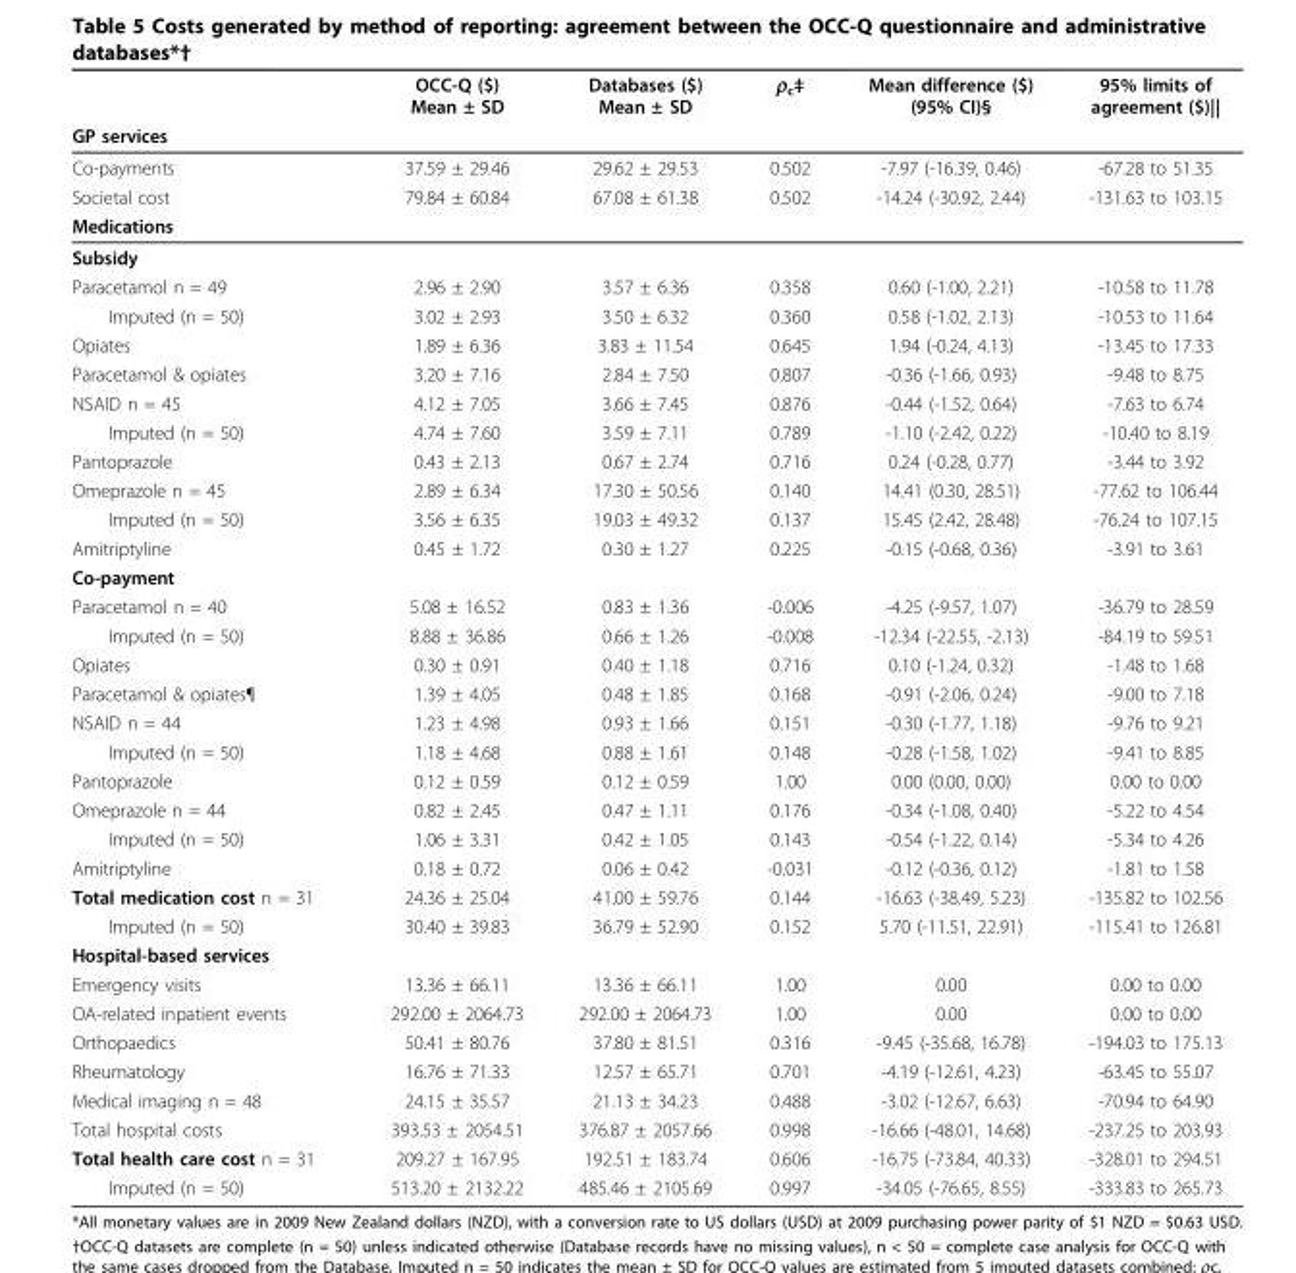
<table><thead><tr><td rowspan="2">GP services</td><td rowspan="2">OCC-Q ($) Mean ± SD</td><td rowspan="2">Databases ($) Mean ± SD</td><td rowspan="2">ρ<sub>c</sub>‡</td><td rowspan="2">Mean difference ($) (95% CI)§</td><td rowspan="2">95% limits of agreement ($)||</td></tr><tr></tr></thead><tbody><tr><td>Co-payments</td><td>37.59 ± 29.46</td><td>29.62 ± 29.53</td><td>0.502</td><td>-7.97 (-16.39, 0.46)</td><td>-67.28 to 51.35</td></tr><tr><td>Societal cost</td><td>79.84 ± 60.84</td><td>67.08 ± 61.38</td><td>0.502</td><td>-14.24 (-30.92, 2.44)</td><td>-131.63 to 103.15</td></tr><tr><td colspan="6">Medications</td></tr><tr><td colspan="6">Subsidy</td></tr><tr><td>Paracetamol n = 49</td><td>2.96 ± 2.90</td><td>3.57 ± 6.36</td><td>0.358</td><td>0.60 (-1.00, 2.21)</td><td>-10.58 to 11.78</td></tr><tr><td>Imputed (n = 50)</td><td>3.02 ± 2.93</td><td>3.50 ± 6.32</td><td>0.360</td><td>0.58 (-1.02, 2.13)</td><td>-10.53 to 11.64</td></tr><tr><td>Opiates</td><td>1.89 ± 6.36</td><td>3.83 ± 11.54</td><td>0.645</td><td>1.94 (-0.24, 4.13)</td><td>-13.45 to 17.33</td></tr><tr><td>Paracetamol &amp; opiates</td><td>3.20 ± 7.16</td><td>2.84 ± 7.50</td><td>0.807</td><td>-0.36 (-1.66, 0.93)</td><td>-9.48 to 8.75</td></tr><tr><td>NSAID n = 45</td><td>4.12 ± 7.05</td><td>3.66 ± 7.45</td><td>0.876</td><td>-0.44 (-1.52, 0.64)</td><td>-7.63 to 6.74</td></tr><tr><td>Imputed (n = 50)</td><td>4.74 ± 7.60</td><td>3.59 ± 7.11</td><td>0.789</td><td>-1.10 (-2.42, 0.22)</td><td>-10.40 to 8.19</td></tr><tr><td>Pantoprazole</td><td>0.43 ± 2.13</td><td>0.67 ± 2.74</td><td>0.716</td><td>0.24 (-0.28, 0.77)</td><td>-3.44 to 3.92</td></tr><tr><td>Omeprazole n = 45</td><td>2.89 ± 6.34</td><td>17.30 ± 50.56</td><td>0.140</td><td>14.41 (0.30, 28.51)</td><td>-77.62 to 106.44</td></tr><tr><td>Imputed (n = 50)</td><td>3.56 ± 6.35</td><td>19.03 ± 49.32</td><td>0.137</td><td>15.45 (2.42, 28.48)</td><td>-76.24 to 107.15</td></tr><tr><td>Amitriptyline</td><td>0.45 ± 1.72</td><td>0.30 ± 1.27</td><td>0.225</td><td>-0.15 (-0.68, 0.36)</td><td>-3.91 to 3.61</td></tr><tr><td colspan="6">Co-payment</td></tr><tr><td>Paracetamol n = 40</td><td>5.08 ± 16.52</td><td>0.83 ± 1.36</td><td>-0.006</td><td>-4.25 (-9.57, 1.07)</td><td>-36.79 to 28.59</td></tr><tr><td>Imputed (n = 50)</td><td>8.88 ± 36.86</td><td>0.66 ± 1.26</td><td>-0.008</td><td>-12.34 (-22.55, -2.13)</td><td>-84.19 to 59.51</td></tr><tr><td>Opiates</td><td>0.30 ± 0.91</td><td>0.40 ± 1.18</td><td>0.716</td><td>0.10 (-1.24, 0.32)</td><td>-1.48 to 1.68</td></tr><tr><td>Paracetamol &amp; opiates¶</td><td>1.39 ± 4.05</td><td>0.48 ± 1.85</td><td>0.168</td><td>-0.91 (-2.06, 0.24)</td><td>-9.00 to 7.18</td></tr><tr><td>NSAID n = 44</td><td>1.23 ± 4.98</td><td>0.93 ± 1.66</td><td>0.151</td><td>-0.30 (-1.77, 1.18)</td><td>-9.76 to 9.21</td></tr><tr><td>Imputed (n = 50)</td><td>1.18 ± 4.68</td><td>0.88 ± 1.61</td><td>0.148</td><td>-0.28 (-1.58, 1.02)</td><td>-9.41 to 8.85</td></tr><tr><td>Pantoprazole</td><td>0.12 ± 0.59</td><td>0.12 ± 0.59</td><td>1.00</td><td>0.00 (0.00, 0.00)</td><td>0.00 to 0.00</td></tr><tr><td>Omeprazole n = 44</td><td>0.82 ± 2.45</td><td>0.47 ± 1.11</td><td>0.176</td><td>-0.34 (-1.08, 0.40)</td><td>-5.22 to 4.54</td></tr><tr><td>Imputed (n = 50)</td><td>1.06 ± 3.31</td><td>0.42 ± 1.05</td><td>0.143</td><td>-0.54 (-1.22, 0.14)</td><td>-5.34 to 4.26</td></tr><tr><td>Amitriptyline</td><td>0.18 ± 0.72</td><td>0.06 ± 0.42</td><td>-0.031</td><td>-0.12 (-0.36, 0.12)</td><td>-1.81 to 1.58</td></tr><tr><td>Total medication cost n = 31</td><td>24.36 ± 25.04</td><td>41.00 ± 59.76</td><td>0.144</td><td>-16.63 (-38.49, 5.23)</td><td>-135.82 to 102.56</td></tr><tr><td>Imputed (n = 50)</td><td>30.40 ± 39.83</td><td>36.79 ± 52.90</td><td>0.152</td><td>5.70 (-11.51, 22.91)</td><td>-115.41 to 126.81</td></tr><tr><td colspan="6">Hospital-based services</td></tr><tr><td>Emergency visits</td><td>13.36 ± 66.11</td><td>13.36 ± 66.11</td><td>1.00</td><td>0.00</td><td>0.00 to 0.00</td></tr><tr><td>OA-related inpatient events</td><td>292.00 ± 2064.73</td><td>292.00 ± 2064.73</td><td>1.00</td><td>0.00</td><td>0.00 to 0.00</td></tr><tr><td>Orthopaedics</td><td>50.41 ± 80.76</td><td>37.80 ± 81.51</td><td>0.316</td><td>-9.45 (-35.68, 16.78)</td><td>-194.03 to 175.13</td></tr><tr><td>Rheumatology</td><td>16.76 ± 71.33</td><td>12.57 ± 65.71</td><td>0.701</td><td>-4.19 (-12.61, 4.23)</td><td>-63.45 to 55.07</td></tr><tr><td>Medical imaging n = 48</td><td>24.15 ± 35.57</td><td>21.13 ± 34.23</td><td>0.488</td><td>-3.02 (-12.67, 6.63)</td><td>-70.94 to 64.90</td></tr><tr><td>Total hospital costs</td><td>393.53 ± 2054.51</td><td>376.87 ± 2057.66</td><td>0.998</td><td>-16.66 (-48.01, 14.68)</td><td>-237.25 to 203.93</td></tr><tr><td>Total health care cost n = 31</td><td>209.27 ± 167.95</td><td>192.51 ± 183.74</td><td>0.606</td><td>-16.75 (-73.84, 40.33)</td><td>-328.01 to 294.51</td></tr><tr><td>Imputed (n = 50)</td><td>513.20 ± 2132.22</td><td>485.46 ± 2105.69</td><td>0.997</td><td>-34.05 (-76.65, 8.55)</td><td>-333.83 to 265.73</td></tr></tbody></table>